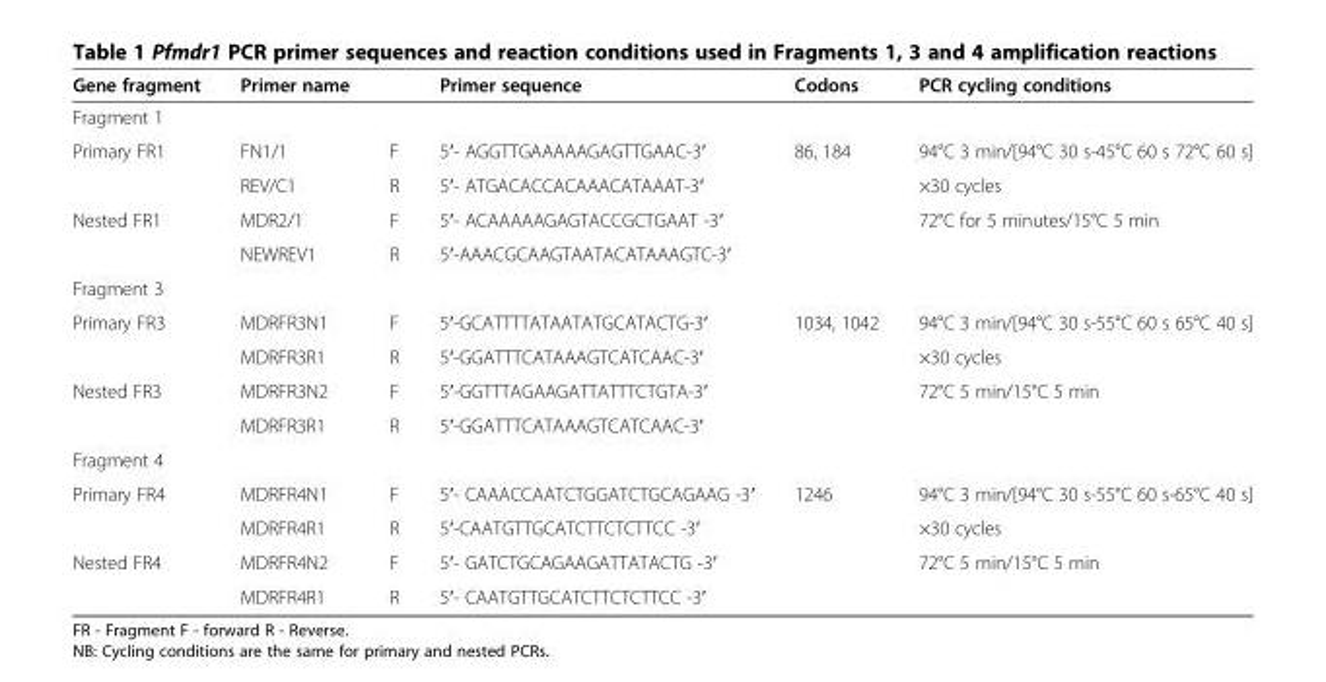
<table><thead><tr><td>Gene fragment</td><td>Primer name</td><td></td><td>Primer sequence</td><td>Codons</td><td>PCR cycling conditions</td></tr></thead><tbody><tr><td colspan="6">Fragment 1</td></tr><tr><td rowspan="2">Primary FR1</td><td>FN1/1</td><td>F</td><td>5′- AGGTTGAAAAAGAGTTGAAC-3′</td><td>86, 184</td><td>94°C 3 min/[94°C 30 s-45°C 60 s 72°C 60 s]</td></tr><tr><td>REV/C1</td><td>R</td><td>5′- ATGACACCACAAACATAAAT-3′</td><td></td><td>×30 cycles</td></tr><tr><td rowspan="2">Nested FR1</td><td>MDR2/1</td><td>F</td><td>5′- ACAAAAAGAGTACCGCTGAAT -3′</td><td></td><td>72°C for 5 minutes/15°C 5 min</td></tr><tr><td>NEWREV1</td><td>R</td><td>5′-AAACGCAAGTAATACATAAAGTC-3′</td><td></td><td></td></tr><tr><td colspan="6">Fragment 3</td></tr><tr><td rowspan="2">Primary FR3</td><td>MDRFR3N1</td><td>F</td><td>5′-GCATTTTATAATATGCATACTG-3′</td><td>1034, 1042</td><td>94°C 3 min/[94°C 30 s-55°C 60 s 65°C 40 s]</td></tr><tr><td>MDRFR3R1</td><td>R</td><td>5′-GGATTTCATAAAGTCATCAAC-3′</td><td></td><td>×30 cycles</td></tr><tr><td rowspan="2">Nested FR3</td><td>MDRFR3N2</td><td>F</td><td>5′-GGTTTAGAAGATTATTTCTGTA-3′</td><td></td><td>72°C 5 min/15°C 5 min</td></tr><tr><td>MDRFR3R1</td><td>R</td><td>5′-GGATTTCATAAAGTCATCAAC-3′</td><td></td><td></td></tr><tr><td colspan="6">Fragment 4</td></tr><tr><td rowspan="2">Primary FR4</td><td>MDRFR4N1</td><td>F</td><td>5′- CAAACCAATCTGGATCTGCAGAAG -3′</td><td>1246</td><td>94°C 3 min/[94°C 30 s-55°C 60 s-65°C 40 s]</td></tr><tr><td>MDRFR4R1</td><td>R</td><td>5′-CAATGTTGCATCTTCTCTTCC -3′</td><td></td><td>×30 cycles</td></tr><tr><td rowspan="2">Nested FR4</td><td>MDRFR4N2</td><td>F</td><td>5′- GATCTGCAGAAGATTATACTG -3′</td><td></td><td>72°C 5 min/15°C 5 min</td></tr><tr><td>MDRFR4R1</td><td>R</td><td>5′- CAATGTTGCATCTTCTCTTCC -3′</td><td></td><td></td></tr></tbody></table>